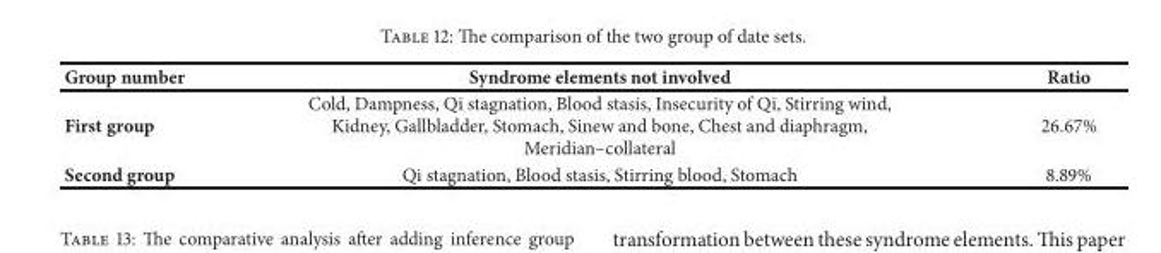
<table><thead><tr><td>Group number</td><td>Syndrome elements not involved</td><td>Ratio</td></tr></thead><tbody><tr><td>First group</td><td>Cold, Dampness, Qi stagnation, Blood stasis, Insecurity of Qi, Stirring wind, Kidney, Gallbladder, Stomach, Sinew and bone, Chest and diaphragm, Meridian–collateral</td><td>26.67%</td></tr><tr><td>Second group</td><td>Qi stagnation, Blood stasis, Stirring blood, Stomach</td><td>8.89%</td></tr></tbody></table>